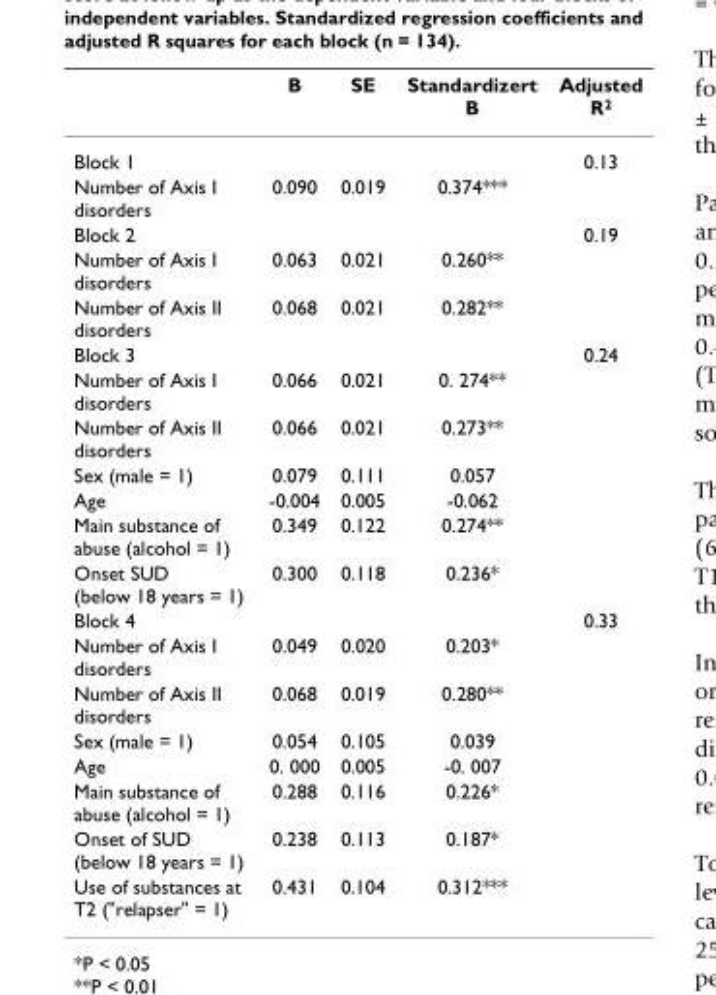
<table><thead><tr><td></td><td>B</td><td>SE</td><td>Standardizert B</td><td>Adjusted R<sup>2</sup></td></tr></thead><tbody><tr><td>Block 1</td><td></td><td></td><td></td><td>0.13</td></tr><tr><td>Number of Axis I disorders</td><td>0.090</td><td>0.019</td><td>0.374***</td><td></td></tr><tr><td>Block 2</td><td></td><td></td><td></td><td>0.19</td></tr><tr><td>Number of Axis I disorders</td><td>0.063</td><td>0.021</td><td>0.260**</td><td></td></tr><tr><td>Number of Axis II disorders</td><td>0.068</td><td>0.021</td><td>0.282**</td><td></td></tr><tr><td>Block 3</td><td></td><td></td><td></td><td>0.24</td></tr><tr><td>Number of Axis I disorders</td><td>0.066</td><td>0.021</td><td>0. 274**</td><td></td></tr><tr><td>Number of Axis II disorders</td><td>0.066</td><td>0.021</td><td>0.273**</td><td></td></tr><tr><td>Sex (male = 1)</td><td>0.079</td><td>0.111</td><td>0.057</td><td></td></tr><tr><td>Age</td><td>-0.004</td><td>0.005</td><td>-0.062</td><td></td></tr><tr><td>Main substance of abuse (alcohol = 1)</td><td>0.349</td><td>0.122</td><td>0.274**</td><td></td></tr><tr><td>Onset SUD (below 18 years = 1)</td><td>0.300</td><td>0.118</td><td>0.236*</td><td></td></tr><tr><td>Block 4</td><td></td><td></td><td></td><td>0.33</td></tr><tr><td>Number of Axis I disorders</td><td>0.049</td><td>0.020</td><td>0.203*</td><td></td></tr><tr><td>Number of Axis II disorders</td><td>0.068</td><td>0.019</td><td>0.280**</td><td></td></tr><tr><td>Sex (male = 1)</td><td>0.054</td><td>0.105</td><td>0.039</td><td></td></tr><tr><td>Age</td><td>0. 000</td><td>0.005</td><td>-0. 007</td><td></td></tr><tr><td>Main substance of abuse (alcohol = 1)</td><td>0.288</td><td>0.116</td><td>0.226*</td><td></td></tr><tr><td>Onset of SUD (below 18 years = 1)</td><td>0.238</td><td>0.113</td><td>0.187*</td><td></td></tr><tr><td>Use of substances at T2 (&quot;relapser&quot; = 1)</td><td>0.431</td><td>0.104</td><td>0.312***</td><td></td></tr></tbody></table>